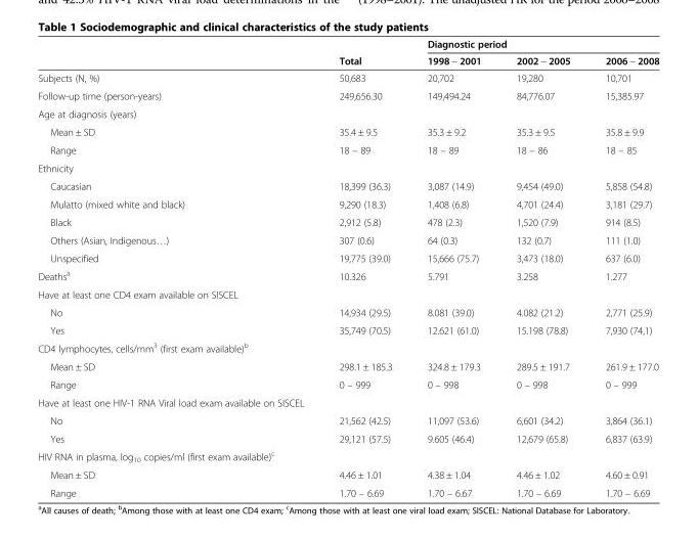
<table><thead><tr><td rowspan="2"></td><td rowspan="2">Total</td><td colspan="3">Diagnostic period</td></tr><tr><td>1998 − 2001</td><td>2002 − 2005</td><td>2006 − 2008</td></tr></thead><tbody><tr><td>Subjects (N, %)</td><td>50,683</td><td>20,702</td><td>19,280</td><td>10,701</td></tr><tr><td>Follow-up time (person-years)</td><td>249,656.30</td><td>149,494.24</td><td>84,776.07</td><td>15,385.97</td></tr><tr><td colspan="5">Age at diagnosis (years)</td></tr><tr><td>Mean ± SD</td><td>35.4 ± 9.5</td><td>35.3 ± 9.2</td><td>35.3 ± 9.5</td><td>35.8 ± 9.9</td></tr><tr><td>Range</td><td>18 – 89</td><td>18 – 89</td><td>18 – 86</td><td>18 – 85</td></tr><tr><td colspan="5">Ethnicity</td></tr><tr><td>Caucasian</td><td>18,399 (36.3)</td><td>3,087 (14.9)</td><td>9,454 (49.0)</td><td>5,858 (54.8)</td></tr><tr><td>Mulatto (mixed white and black)</td><td>9,290 (18.3)</td><td>1,408 (6.8)</td><td>4,701 (24.4)</td><td>3,181 (29.7)</td></tr><tr><td>Black</td><td>2,912 (5.8)</td><td>478 (2.3)</td><td>1,520 (7.9)</td><td>914 (8.5)</td></tr><tr><td>Others (Asian, Indigenous…)</td><td>307 (0.6)</td><td>64 (0.3)</td><td>132 (0.7)</td><td>111 (1.0)</td></tr><tr><td>Unspecified</td><td>19,775 (39.0)</td><td>15,666 (75.7)</td><td>3,473 (18.0)</td><td>637 (6.0)</td></tr><tr><td>Deaths<sup>a</sup></td><td>10.326</td><td>5.791</td><td>3.258</td><td>1.277</td></tr><tr><td colspan="5">Have at least one CD4 exam available on SISCEL</td></tr><tr><td>No</td><td>14,934 (29.5)</td><td>8.081 (39.0)</td><td>4.082 (21.2)</td><td>2,771 (25.9)</td></tr><tr><td>Yes</td><td>35,749 (70.5)</td><td>12.621 (61.0)</td><td>15.198 (78.8)</td><td>7,930 (74,1)</td></tr><tr><td colspan="5">CD4 lymphocytes, cells/mm<sup>3</sup> (first exam available)<sup>b</sup></td></tr><tr><td>Mean ± SD</td><td>298.1 ± 185.3</td><td>324.8 ± 179.3</td><td>289.5 ± 191.7</td><td>261.9 ± 177.0</td></tr><tr><td>Range</td><td>0 – 999</td><td>0 – 998</td><td>0 – 998</td><td>0 – 999</td></tr><tr><td colspan="5">Have at least one HIV-1 RNA Viral load exam available on SISCEL</td></tr><tr><td>No</td><td>21,562 (42.5)</td><td>11,097 (53.6)</td><td>6,601 (34.2)</td><td>3,864 (36.1)</td></tr><tr><td>Yes</td><td>29,121 (57.5)</td><td>9.605 (46.4)</td><td>12,679 (65.8)</td><td>6,837 (63.9)</td></tr><tr><td colspan="5">HIV RNA in plasma, log<sub>10</sub> copies/ml (first exam available)<sup>c</sup></td></tr><tr><td>Mean ± SD</td><td>4.46 ± 1.01</td><td>4.38 ± 1.04</td><td>4.46 ± 1.02</td><td>4.60 ± 0.91</td></tr><tr><td>Range</td><td>1.70 – 6.69</td><td>1.70 – 6.67</td><td>1.70 – 6.69</td><td>1.70 – 6.69</td></tr></tbody></table>